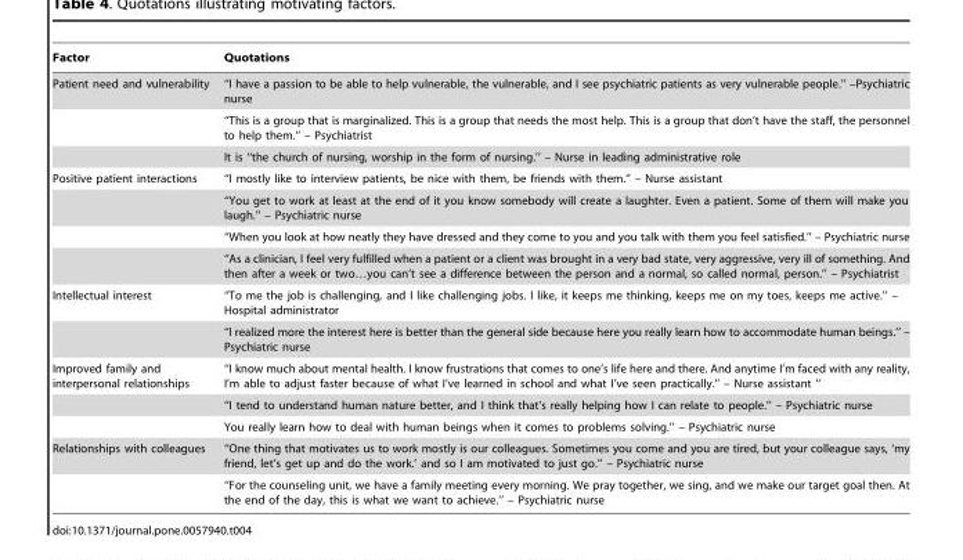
<table><thead><tr><td>Factor</td><td>Quotations</td></tr></thead><tbody><tr><td rowspan="3">Patient need and vulnerability</td><td>‘‘I have a passion to be able to help vulnerable, the vulnerable, and I see psychiatric patients as very vulnerable people.’’ –Psychiatric nurse</td></tr><tr><td>‘‘This is a group that is marginalized. This is a group that needs the most help. This is a group that don’t have the staff, the personnel to help them.’’ – Psychiatrist</td></tr><tr><td>It is ‘‘the church of nursing, worship in the form of nursing.’’ – Nurse in leading administrative role</td></tr><tr><td rowspan="4">Positive patient interactions</td><td>‘‘I mostly like to interview patients, be nice with them, be friends with them.’’ – Nurse assistant</td></tr><tr><td>‘‘You get to work at least at the end of it you know somebody will create a laughter. Even a patient. Some of them will make you laugh.’’ – Psychiatric nurse</td></tr><tr><td>‘‘When you look at how neatly they have dressed and they come to you and you talk with them you feel satisfied.’’ – Psychiatric nurse</td></tr><tr><td>‘‘As a clinician, I feel very fulfilled when a patient or a client was brought in a very bad state, very aggressive, very ill of something. And then after a week or two…you can’t see a difference between the person and a normal, so called normal, person.’’ – Psychiatrist</td></tr><tr><td rowspan="2">Intellectual interest</td><td>‘‘To me the job is challenging, and I like challenging jobs. I like, it keeps me thinking, keeps me on my toes, keeps me active.’’ – Hospital administrator</td></tr><tr><td>‘‘I realized more the interest here is better than the general side because here you really learn how to accommodate human beings.’’ – Psychiatric nurse</td></tr><tr><td rowspan="3">Improved family and interpersonal relationships</td><td>‘‘I know much about mental health. I know frustrations that comes to one’s life here and there. And anytime I’m faced with any reality, I’m able to adjust faster because of what I’ve learned in school and what I’ve seen practically.’’ – Nurse assistant ‘‘</td></tr><tr><td>‘‘I tend to understand human nature better, and I think that’s really helping how I can relate to people.’’ – Psychiatric nurse</td></tr><tr><td>You really learn how to deal with human beings when it comes to problems solving.’’ – Psychiatric nurse</td></tr><tr><td rowspan="2">Relationships with colleagues</td><td>‘‘One thing that motivates us to work mostly is our colleagues. Sometimes you come and you are tired, but your colleague says, ‘my friend, let’s get up and do the work.’ and so I am motivated to just go.’’ – Psychiatric nurse</td></tr><tr><td>‘‘For the counseling unit, we have a family meeting every morning. We pray together, we sing, and we make our target goal then. At the end of the day, this is what we want to achieve.’’ – Psychiatric nurse</td></tr></tbody></table>